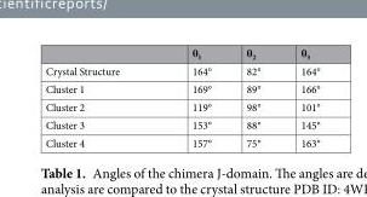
<table><thead><tr><td></td><td>θ<sub>1</sub></td><td>θ<sub>2</sub></td><td>θ<sub>3</sub></td></tr></thead><tbody><tr><td>Crystal Structure</td><td>164°</td><td>82°</td><td>164°</td></tr><tr><td>Cluster 1</td><td>169°</td><td>89°</td><td>166°</td></tr><tr><td>Cluster 2</td><td>119°</td><td>98°</td><td>101°</td></tr><tr><td>Cluster 3</td><td>153°</td><td>88°</td><td>145°</td></tr><tr><td>Cluster 4</td><td>157°</td><td>75°</td><td>163°</td></tr></tbody></table>